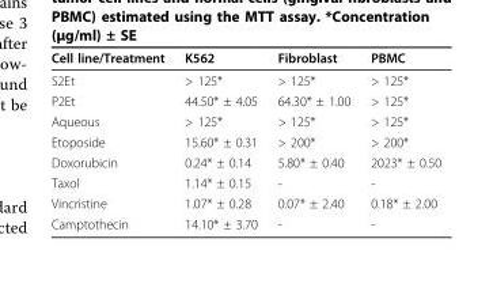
<table><thead><tr><td>Cell line/Treatment</td><td>K562</td><td>Fibroblast</td><td>PBMC</td></tr></thead><tbody><tr><td>S2Et</td><td>&gt; 125*</td><td>&gt; 125*</td><td>&gt; 125*</td></tr><tr><td>P2Et</td><td>44.50* ± 4.05</td><td>64.30* ± 1.00</td><td>&gt; 125*</td></tr><tr><td>Aqueous</td><td>&gt; 125*</td><td>&gt; 125*</td><td>&gt; 125*</td></tr><tr><td>Etoposide</td><td>15.60* ± 0.31</td><td>&gt; 200*</td><td>&gt; 200*</td></tr><tr><td>Doxorubicin</td><td>0.24* ± 0.14</td><td>5.80* ± 0.40</td><td>2023* ± 0.50</td></tr><tr><td>Taxol</td><td>1.14* ± 0.15</td><td>-</td><td>-</td></tr><tr><td>Vincristine</td><td>1.07* ± 0.28</td><td>0.07* ± 2.40</td><td>0.18* ± 2.00</td></tr><tr><td>Camptothecin</td><td>14.10* ± 3.70</td><td>-</td><td>-</td></tr></tbody></table>